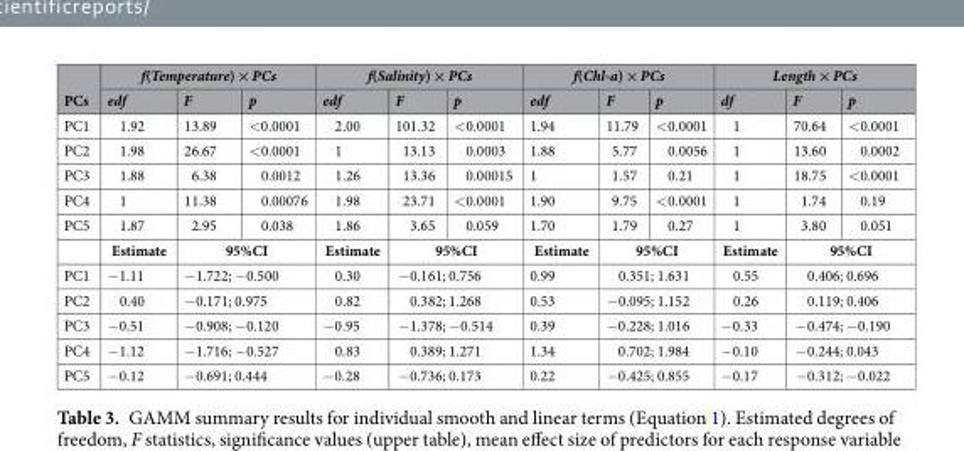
<table><thead><tr><td rowspan="2">PCs</td><td colspan="3">f(Temperature) × PCs</td><td colspan="3">f(Salinity) × PCs</td><td colspan="3">f(Chl-a) × PCs</td><td colspan="3">Length × PCs</td></tr><tr><td>edf</td><td>F</td><td>p</td><td>edf</td><td>F</td><td>p</td><td>edf</td><td>F</td><td>p</td><td>df</td><td>F</td><td>p</td></tr></thead><tbody><tr><td>PC1</td><td>1.92</td><td>13.89</td><td>&lt;0.0001</td><td>2.00</td><td>101.32</td><td>&lt;0.0001</td><td>1.94</td><td>11.79</td><td>&lt;0.0001</td><td>1</td><td>70.64</td><td>&lt;0.0001</td></tr><tr><td>PC2</td><td>1.98</td><td>26.67</td><td>&lt;0.0001</td><td>1</td><td>13.13</td><td>0.0003</td><td>1.88</td><td>5.77</td><td>0.0056</td><td>1</td><td>13.60</td><td>0.0002</td></tr><tr><td>PC3</td><td>1.88</td><td>6.38</td><td>0.0012</td><td>1.26</td><td>13.36</td><td>0.00015</td><td>1</td><td>1.57</td><td>0.21</td><td>1</td><td>18.75</td><td>&lt;0.0001</td></tr><tr><td>PC4</td><td>1</td><td>11.38</td><td>0.00076</td><td>1.98</td><td>23.71</td><td>&lt;0.0001</td><td>1.90</td><td>9.75</td><td>&lt;0.0001</td><td>1</td><td>1.74</td><td>0.19</td></tr><tr><td rowspan="2">PC5</td><td>1.87</td><td>2.95</td><td>0.038</td><td>1.86</td><td>3.65</td><td>0.059</td><td>1.70</td><td>1.79</td><td>0.27</td><td>1</td><td>3.80</td><td>0.051</td></tr><tr><td>Estimate</td><td colspan="2">95%CI</td><td>Estimate</td><td colspan="2">95%CI</td><td>Estimate</td><td colspan="2">95%CI</td><td>Estimate</td><td colspan="2">95%CI</td></tr><tr><td>PC1</td><td>−1.11</td><td colspan="2">−1.722; −0.500</td><td>0.30</td><td colspan="2">−0.161; 0.756</td><td>0.99</td><td colspan="2">0.351; 1.631</td><td>0.55</td><td colspan="2">0.406; 0.696</td></tr><tr><td>PC2</td><td>0.40</td><td colspan="2">−0.171; 0.975</td><td>0.82</td><td colspan="2">0.382; 1.268</td><td>0.53</td><td colspan="2">−0.095; 1.152</td><td>0.26</td><td colspan="2">0.119; 0.406</td></tr><tr><td>PC3</td><td>−0.51</td><td colspan="2">−0.908; −0.120</td><td>−0.95</td><td colspan="2">−1.378; −0.514</td><td>0.39</td><td colspan="2">−0.228; 1.016</td><td>−0.33</td><td colspan="2">−0.474; −0.190</td></tr><tr><td>PC4</td><td>−1.12</td><td colspan="2">−1.716; −0.527</td><td>0.83</td><td colspan="2">0.389; 1.271</td><td>1.34</td><td colspan="2">0.702; 1.984</td><td>−0.10</td><td colspan="2">−0.244; 0.043</td></tr><tr><td>PC5</td><td>−0.12</td><td colspan="2">−0.691; 0.444</td><td>−0.28</td><td colspan="2">−0.736; 0.173</td><td>0.22</td><td colspan="2">−0.425; 0.855</td><td>−0.17</td><td colspan="2">−0.312; −0.022</td></tr></tbody></table>